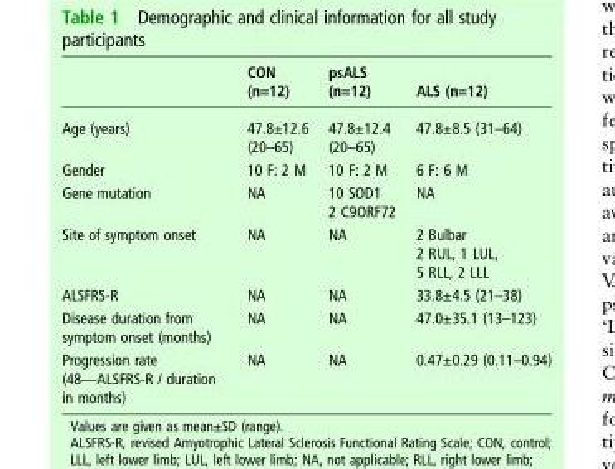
<table><thead><tr><td></td><td>CON (n=12)</td><td>psALS (n=12)</td><td>ALS (n=12)</td></tr></thead><tbody><tr><td>Age (years)</td><td>47.8±12.6 (20–65)</td><td>47.8±12.4 (20–65)</td><td>47.8±8.5 (31–64)</td></tr><tr><td>Gender</td><td>10 F: 2 M</td><td>10 F: 2 M</td><td>6 F: 6 M</td></tr><tr><td>Gene mutation</td><td>NA</td><td>10 SOD1 2 C9ORF72</td><td>NA</td></tr><tr><td>Site of symptom onset</td><td>NA</td><td>NA</td><td>2 Bulbar 2 RUL, 1 LUL, 5 RLL, 2 LLL</td></tr><tr><td>ALSFRS-R</td><td>NA</td><td>NA</td><td>33.8±4.5 (21–38)</td></tr><tr><td>Disease duration from symptom onset (months)</td><td>NA</td><td>NA</td><td>47.0±35.1 (13–123)</td></tr><tr><td>Progression rate (48—ALSFRS-R / duration in months)</td><td>NA</td><td>NA</td><td>0.47±0.29 (0.11–0.94)</td></tr></tbody></table>